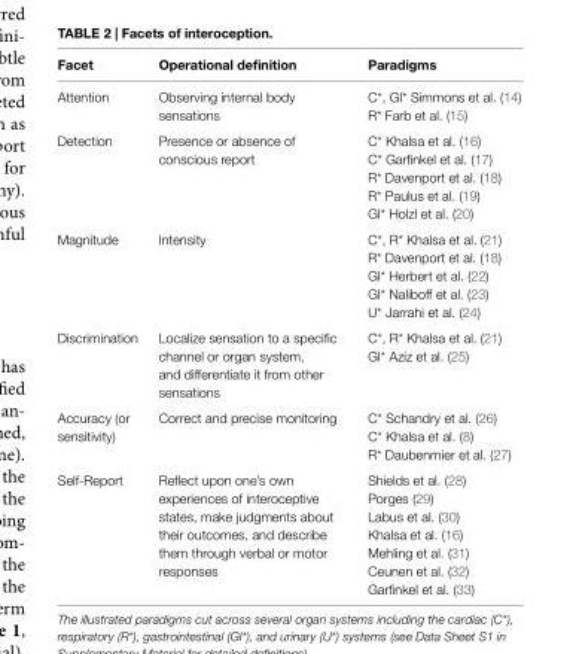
<table><thead><tr><td>Facet</td><td>Operational definition</td><td>Paradigms</td></tr></thead><tbody><tr><td rowspan="2">Attention</td><td rowspan="2">Observing internal body sensations</td><td>C*, GI* Simmons et al. (14)</td></tr><tr><td>R* Farb et al. (15)</td></tr><tr><td rowspan="5">Detection</td><td rowspan="5">Presence or absence of conscious report</td><td>C* Khalsa et al. (16)</td></tr><tr><td>C* Garfinkel et al. (17)</td></tr><tr><td>R* Davenport et al. (18)</td></tr><tr><td>R* Paulus et al. (19)</td></tr><tr><td>GI* Holzl et al. (20)</td></tr><tr><td rowspan="5">Magnitude</td><td rowspan="5">Intensity</td><td>C*, R* Khalsa et al. (21)</td></tr><tr><td>R* Davenport et al. (18)</td></tr><tr><td>GI* Herbert et al. (22)</td></tr><tr><td>GI* Naliboff et al. (23)</td></tr><tr><td>U* Jarrahi et al. (24)</td></tr><tr><td rowspan="2">Discrimination</td><td rowspan="2">Localize sensation to a specific channel or organ system, and differentiate it from other sensations</td><td>C*, R* Khalsa et al. (21)</td></tr><tr><td>GI* Aziz et al. (25)</td></tr><tr><td rowspan="3">Accuracy (or sensitivity)</td><td rowspan="3">Correct and precise monitoring</td><td>C* Schandry et al. (26)</td></tr><tr><td>C* Khalsa et al. (8)</td></tr><tr><td>R* Daubenmier et al. (27)</td></tr><tr><td rowspan="7">Self-Report</td><td rowspan="7">Reflect upon one’s own experiences of interoceptive states, make judgments about their outcomes, and describe them through verbal or motor responses</td><td>Shields et al. (28)</td></tr><tr><td>Porges (29)</td></tr><tr><td>Labus et al. (30)</td></tr><tr><td>Khalsa et al. (16)</td></tr><tr><td>Mehling et al. (31)</td></tr><tr><td>Ceunen et al. (32)</td></tr><tr><td>Garfinkel et al. (33)</td></tr></tbody></table>